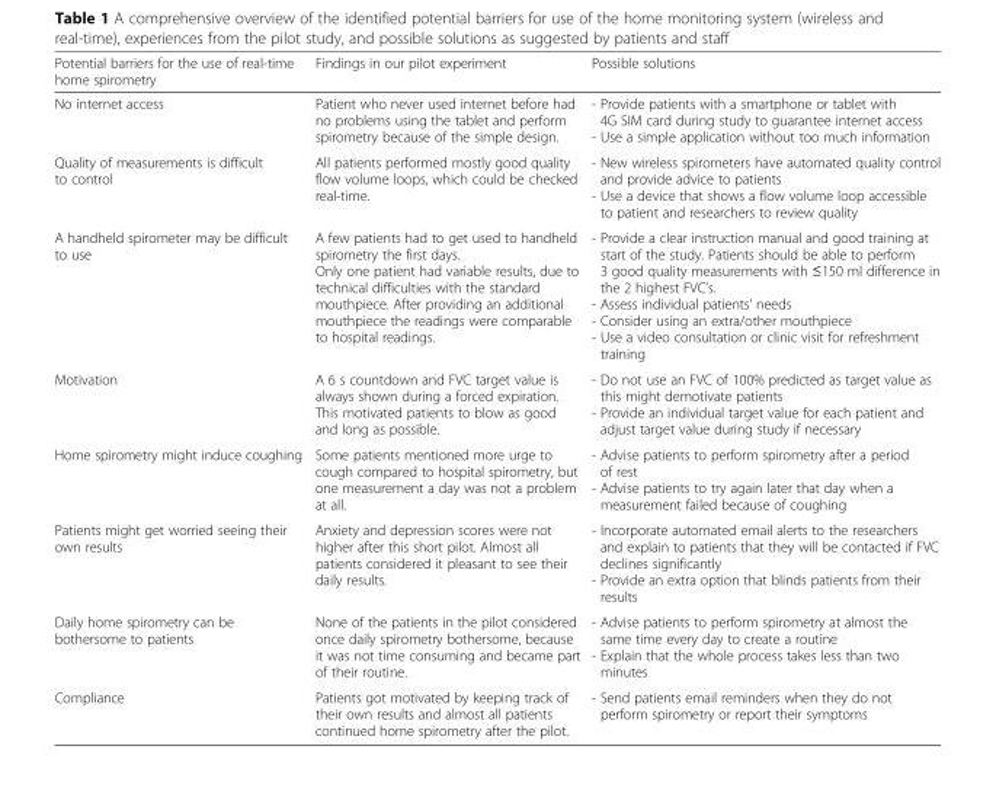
<table><thead><tr><td>Potential barriers for the use of real-time home spirometry</td><td>Findings in our pilot experiment</td><td>Possible solutions</td></tr></thead><tbody><tr><td>No internet access</td><td>Patient who never used internet before had no problems using the tablet and perform spirometry because of the simple design.</td><td>- Provide patients with a smartphone or tablet with 4G SIM card during study to guarantee internet access - Use a simple application without too much information</td></tr><tr><td>Quality of measurements is difficult to control</td><td>All patients performed mostly good quality flow volume loops, which could be checked real-time.</td><td>- New wireless spirometers have automated quality control and provide advice to patients - Use a device that shows a flow volume loop accessible to patient and researchers to review quality</td></tr><tr><td>A handheld spirometer may be difficult to use</td><td>A few patients had to get used to handheld spirometry the first days. Only one patient had variable results, due to technical difficulties with the standard mouthpiece. After providing an additional mouthpiece the readings were comparable to hospital readings.</td><td>- Provide a clear instruction manual and good training at start of the study. Patients should be able to perform 3 good quality measurements with ≤150 ml difference in the 2 highest FVC’s. - Assess individual patients’ needs - Consider using an extra/other mouthpiece - Use a video consultation or clinic visit for refreshment training</td></tr><tr><td>Motivation</td><td>A 6 s countdown and FVC target value is always shown during a forced expiration. This motivated patients to blow as good and long as possible.</td><td>- Do not use an FVC of 100% predicted as target value as this might demotivate patients - Provide an individual target value for each patient and adjust target value during study if necessary</td></tr><tr><td>Home spirometry might induce coughing</td><td>Some patients mentioned more urge to cough compared to hospital spirometry, but one measurement a day was not a problem at all.</td><td>- Advise patients to perform spirometry after a period of rest - Advise patients to try again later that day when a measurement failed because of coughing</td></tr><tr><td>Patients might get worried seeing their own results</td><td>Anxiety and depression scores were not higher after this short pilot. Almost all patients considered it pleasant to see their daily results.</td><td>- Incorporate automated email alerts to the researchers and explain to patients that they will be contacted if FVC declines significantly - Provide an extra option that blinds patients from their results</td></tr><tr><td>Daily home spirometry can be bothersome to patients</td><td>None of the patients in the pilot considered once daily spirometry bothersome, because it was not time consuming and became part of their routine.</td><td>- Advise patients to perform spirometry at almost the same time every day to create a routine - Explain that the whole process takes less than two minutes</td></tr><tr><td>Compliance</td><td>Patients got motivated by keeping track of their own results and almost all patients continued home spirometry after the pilot.</td><td>- Send patients email reminders when they do not perform spirometry or report their symptoms</td></tr></tbody></table>